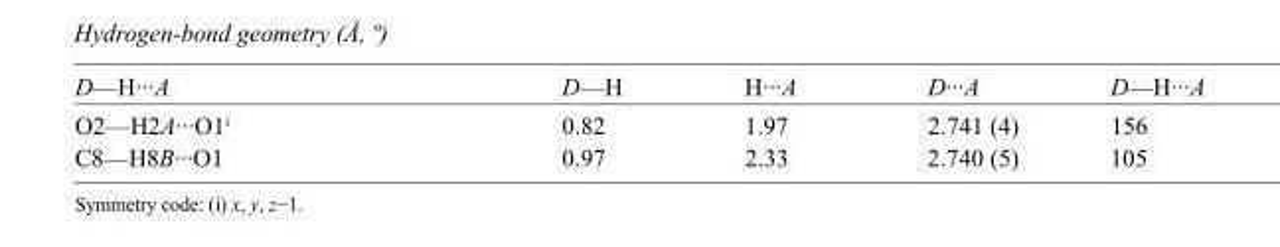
<table><tbody><tr><td>D—H···A</td><td>D—H</td><td>H···A</td><td>D···A</td><td>D—H···A</td></tr><tr><td>O2—H2A···O1<sup>i</sup></td><td>0.82</td><td>1.97</td><td>2.741 (4)</td><td>156</td></tr><tr><td>C8—H8B···O1</td><td>0.97</td><td>2.33</td><td>2.740 (5)</td><td>105</td></tr></tbody></table>